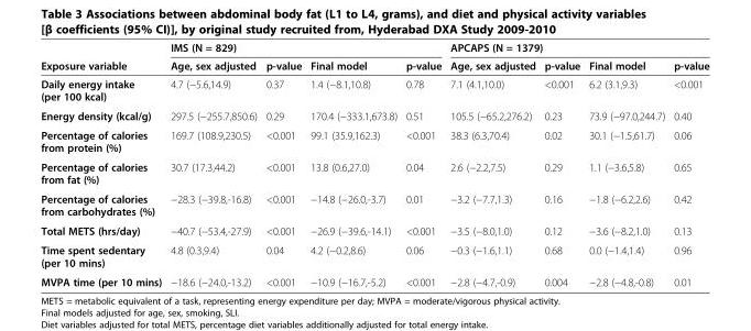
<table><thead><tr><td rowspan="2">Exposure variable</td><td colspan="4">IMS (N = 829)</td><td colspan="4">APCAPS (N = 1379)</td></tr><tr><td>Age, sex adjusted</td><td>p-value</td><td>Final model</td><td>p-value</td><td>Age, sex adjusted</td><td>p-value</td><td>Final model</td><td>p-value</td></tr></thead><tbody><tr><td>Daily energy intake (per 100 kcal)</td><td>4.7 (−5.6,14.9)</td><td>0.37</td><td>1.4 (−8.1,10.8)</td><td>0.78</td><td>7.1 (4.1,10.0)</td><td>&lt;0.001</td><td>6.2 (3.1,9.3)</td><td>&lt;0.001</td></tr><tr><td>Energy density (kcal/g)</td><td>297.5 (−255.7,850.6)</td><td>0.29</td><td>170.4 (−333.1,673.8)</td><td>0.51</td><td>105.5 (−65.2,276.2)</td><td>0.23</td><td>73.9 (−97.0,244.7)</td><td>0.40</td></tr><tr><td>Percentage of calories from protein (%)</td><td>169.7 (108.9,230.5)</td><td>&lt;0.001</td><td>99.1 (35.9,162.3)</td><td>&lt;0.001</td><td>38.3 (6.3,70.4)</td><td>0.02</td><td>30.1 (−1.5,61.7)</td><td>0.06</td></tr><tr><td>Percentage of calories from fat (%)</td><td>30.7 (17.3,44.2)</td><td>&lt;0.001</td><td>13.8 (0.6,27.0)</td><td>0.04</td><td>2.6 (−2.2,7.5)</td><td>0.29</td><td>1.1 (−3.6,5.8)</td><td>0.65</td></tr><tr><td>Percentage of calories from carbohydrates (%)</td><td>−28.3 (−39.8,-16.8)</td><td>&lt;0.001</td><td>−14.8 (−26.0,-3.7)</td><td>0.01</td><td>−3.2 (−7.7,1.3)</td><td>0.16</td><td>−1.8 (−6.2,2.6)</td><td>0.42</td></tr><tr><td>Total METS (hrs/day)</td><td>−40.7 (−53.4,-27.9)</td><td>&lt;0.001</td><td>−26.9 (−39.6,-14.1)</td><td>&lt;0.001</td><td>−3.5 (−8.0,1.0)</td><td>0.12</td><td>−3.6 (−8.2,1.0)</td><td>0.13</td></tr><tr><td>Time spent sedentary (per 10 mins)</td><td>4.8 (0.3,9.4)</td><td>0.04</td><td>4.2 (−0.2,8.6)</td><td>0.06</td><td>−0.3 (−1.6,1.1)</td><td>0.68</td><td>0.0 (−1.4,1.4)</td><td>0.96</td></tr><tr><td>MVPA time (per 10 mins)</td><td>−18.6 (−24.0,-13.2)</td><td>&lt;0.001</td><td>−10.9 (−16.7,-5.2)</td><td>&lt;0.001</td><td>−2.8 (−4.7,-0.9)</td><td>0.004</td><td>−2.8 (−4.8,-0.8)</td><td>0.01</td></tr></tbody></table>